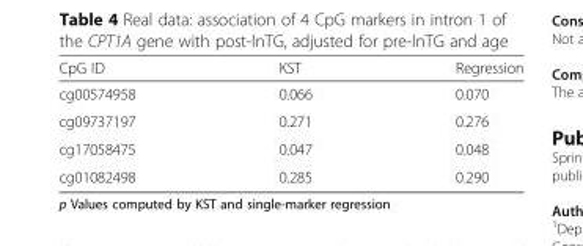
<table><thead><tr><td>CpG ID</td><td>KST</td><td>Regression</td></tr></thead><tbody><tr><td>cg00574958</td><td>0.066</td><td>0.070</td></tr><tr><td>cg09737197</td><td>0.271</td><td>0.276</td></tr><tr><td>cg17058475</td><td>0.047</td><td>0.048</td></tr><tr><td>cg01082498</td><td>0.285</td><td>0.290</td></tr></tbody></table>